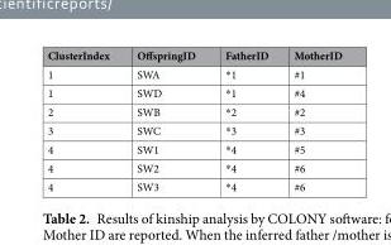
<table><thead><tr><td>ClusterIndex</td><td>OffspringID</td><td>FatherID</td><td>MotherID</td></tr></thead><tbody><tr><td>1</td><td>SWA</td><td>*1</td><td>#1</td></tr><tr><td>1</td><td>SWD</td><td>*1</td><td>#4</td></tr><tr><td>2</td><td>SWB</td><td>*2</td><td>#2</td></tr><tr><td>3</td><td>SWC</td><td>*3</td><td>#3</td></tr><tr><td>4</td><td>SW1</td><td>*4</td><td>#5</td></tr><tr><td>4</td><td>SW2</td><td>*4</td><td>#6</td></tr><tr><td>4</td><td>SW3</td><td>*4</td><td>#6</td></tr></tbody></table>